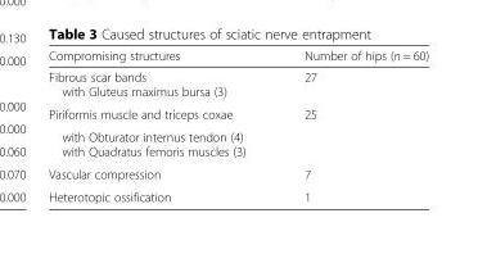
<table><thead><tr><td>Compromising structures</td><td>Number of hips (n = 60)</td></tr></thead><tbody><tr><td>Fibrous scar bands with Gluteus maximus bursa (3)</td><td>27</td></tr><tr><td>Piriformis muscle and triceps coxae</td><td>25</td></tr><tr><td colspan="2">with Obturator internus tendon (4) with Quadratus femoris muscles (3)</td></tr><tr><td>Vascular compression</td><td>7</td></tr><tr><td>Heterotopic ossification</td><td>1</td></tr></tbody></table>